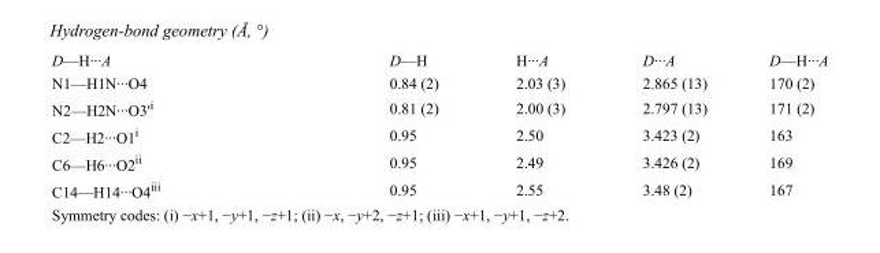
<table><tbody><tr><td>D—H···A</td><td>D—H</td><td>H···A</td><td>D···A</td><td>D—H···A</td></tr><tr><td>N1—H1N···O4</td><td>0.84 (2)</td><td>2.03 (3)</td><td>2.865 (13)</td><td>170 (2)</td></tr><tr><td>N2—H2N···O3&#x27;<sup>i</sup></td><td>0.81 (2)</td><td>2.00 (3)</td><td>2.797 (13)</td><td>171 (2)</td></tr><tr><td>C2—H2···O1<sup>i</sup></td><td>0.95</td><td>2.50</td><td>3.423 (2)</td><td>163</td></tr><tr><td>C6—H6···O2<sup>ii</sup></td><td>0.95</td><td>2.49</td><td>3.426 (2)</td><td>169</td></tr><tr><td>C14—H14···O4<sup>iii</sup></td><td>0.95</td><td>2.55</td><td>3.48 (2)</td><td>167</td></tr></tbody></table>